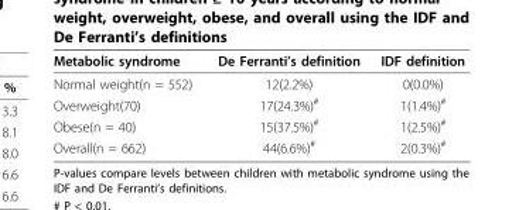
<table><thead><tr><td>Metabolic syndrome</td><td>De Ferranti’s definition</td><td>IDF definition</td></tr></thead><tbody><tr><td>Normal weight(n = 552)</td><td>12(2.2%)</td><td>0(0.0%)</td></tr><tr><td>Overweight(70)</td><td>17(24.3%)<sup>#</sup></td><td>1(1.4%)<sup>#</sup></td></tr><tr><td>Obese(n = 40)</td><td>15(37.5%)<sup>#</sup></td><td>1(2.5%)<sup>#</sup></td></tr><tr><td>Overall(n = 662)</td><td>44(6.6%)<sup>#</sup></td><td>2(0.3%)<sup>#</sup></td></tr></tbody></table>